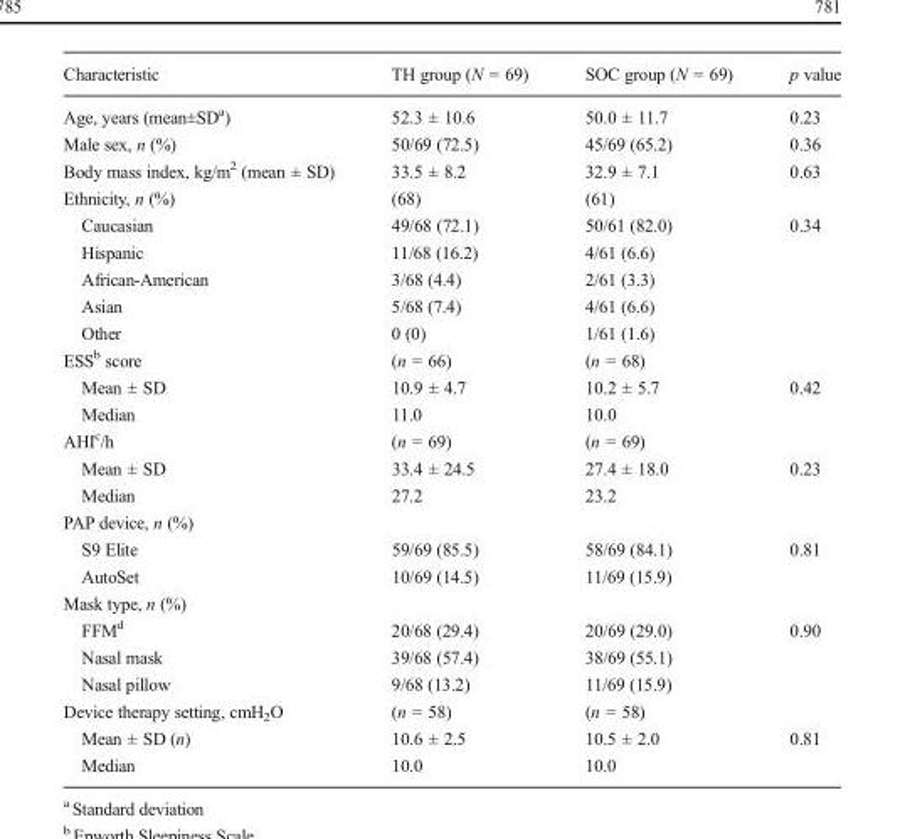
<table><thead><tr><td>Characteristic</td><td>TH group (N = 69)</td><td>SOC group (N = 69)</td><td>p value</td></tr></thead><tbody><tr><td>Age, years (mean±SD<sup>a</sup>)</td><td>52.3 ± 10.6</td><td>50.0 ± 11.7</td><td>0.23</td></tr><tr><td>Male sex, n (%)</td><td>50/69 (72.5)</td><td>45/69 (65.2)</td><td>0.36</td></tr><tr><td>Body mass index, kg/m<sup>2</sup> (mean ± SD)</td><td>33.5 ± 8.2</td><td>32.9 ± 7.1</td><td>0.63</td></tr><tr><td>Ethnicity, n (%)</td><td>(68)</td><td>(61)</td><td></td></tr><tr><td>Caucasian</td><td>49/68 (72.1)</td><td>50/61 (82.0)</td><td>0.34</td></tr><tr><td>Hispanic</td><td>11/68 (16.2)</td><td>4/61 (6.6)</td><td></td></tr><tr><td>African-American</td><td>3/68 (4.4)</td><td>2/61 (3.3)</td><td></td></tr><tr><td>Asian</td><td>5/68 (7.4)</td><td>4/61 (6.6)</td><td></td></tr><tr><td>Other</td><td>0 (0)</td><td>1/61 (1.6)</td><td></td></tr><tr><td>ESS<sup>b</sup> score</td><td>(n = 66)</td><td>(n = 68)</td><td></td></tr><tr><td>Mean ± SD</td><td>10.9 ± 4.7</td><td>10.2 ± 5.7</td><td>0.42</td></tr><tr><td>Median</td><td>11.0</td><td>10.0</td><td></td></tr><tr><td>AHI<sup>c</sup>/h</td><td>(n = 69)</td><td>(n = 69)</td><td></td></tr><tr><td>Mean ± SD</td><td>33.4 ± 24.5</td><td>27.4 ± 18.0</td><td>0.23</td></tr><tr><td>Median</td><td>27.2</td><td>23.2</td><td></td></tr><tr><td colspan="4">PAP device, n (%)</td></tr><tr><td>S9 Elite</td><td>59/69 (85.5)</td><td>58/69 (84.1)</td><td>0.81</td></tr><tr><td>AutoSet</td><td>10/69 (14.5)</td><td>11/69 (15.9)</td><td></td></tr><tr><td colspan="4">Mask type, n (%)</td></tr><tr><td>FFM<sup>d</sup></td><td>20/68 (29.4)</td><td>20/69 (29.0)</td><td>0.90</td></tr><tr><td>Nasal mask</td><td>39/68 (57.4)</td><td>38/69 (55.1)</td><td></td></tr><tr><td>Nasal pillow</td><td>9/68 (13.2)</td><td>11/69 (15.9)</td><td></td></tr><tr><td>Device therapy setting, cmH<sub>2</sub>O</td><td>(n = 58)</td><td>(n = 58)</td><td></td></tr><tr><td>Mean ± SD (n)</td><td>10.6 ± 2.5</td><td>10.5 ± 2.0</td><td>0.81</td></tr><tr><td>Median</td><td>10.0</td><td>10.0</td><td></td></tr></tbody></table>